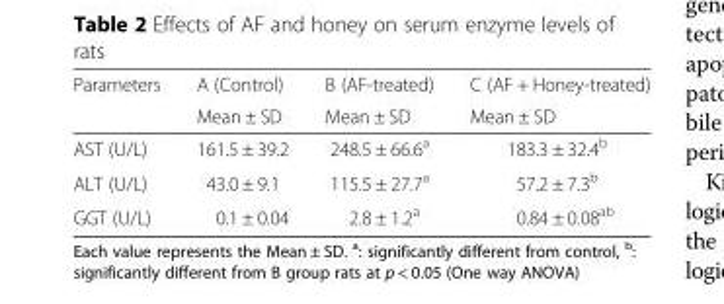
<table><thead><tr><td rowspan="2">Parameters</td><td rowspan="2">A (Control) Mean ± SD</td><td rowspan="2">B (AF-treated) Mean ± SD</td><td rowspan="2">C (AF + Honey-treated) Mean ± SD</td></tr><tr></tr></thead><tbody><tr><td>AST (U/L)</td><td>161.5 ± 39.2</td><td>248.5 ± 66.6<sup>a</sup></td><td>183.3 ± 32.4<sup>b</sup></td></tr><tr><td>ALT (U/L)</td><td>43.0 ± 9.1</td><td>115.5 ± 27.7<sup>a</sup></td><td>57.2 ± 7.3<sup>b</sup></td></tr><tr><td>GGT (U/L)</td><td>0.1 ± 0.04</td><td>2.8 ± 1.2<sup>a</sup></td><td>0.84 ± 0.08<sup>ab</sup></td></tr></tbody></table>